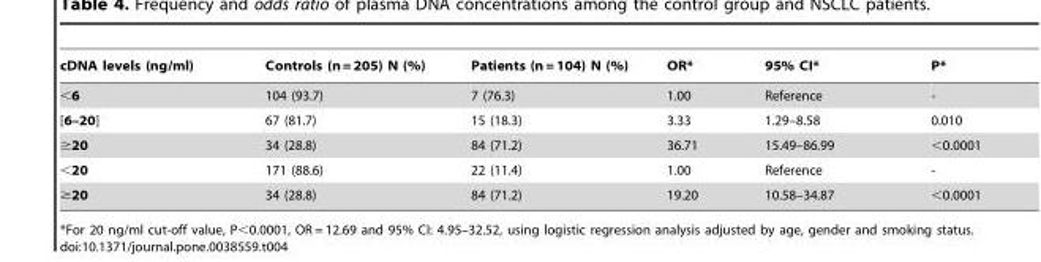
<table><thead><tr><td>cDNA levels (ng/ml)</td><td>Controls (n = 205) N (%)</td><td>Patients (n = 104) N (%)</td><td>OR*</td><td>95% CI*</td><td>P*</td></tr></thead><tbody><tr><td>&lt;6</td><td>104 (93.7)</td><td>7 (76.3)</td><td>1.00</td><td>Reference</td><td>-</td></tr><tr><td>[6–20]</td><td>67 (81.7)</td><td>15 (18.3)</td><td>3.33</td><td>1.29–8.58</td><td>0.010</td></tr><tr><td>≥20</td><td>34 (28.8)</td><td>84 (71.2)</td><td>36.71</td><td>15.49–86.99</td><td>&lt;0.0001</td></tr><tr><td>&lt;20</td><td>171 (88.6)</td><td>22 (11.4)</td><td>1.00</td><td>Reference</td><td>-</td></tr><tr><td>≥20</td><td>34 (28.8)</td><td>84 (71.2)</td><td>19.20</td><td>10.58–34.87</td><td>&lt;0.0001</td></tr></tbody></table>